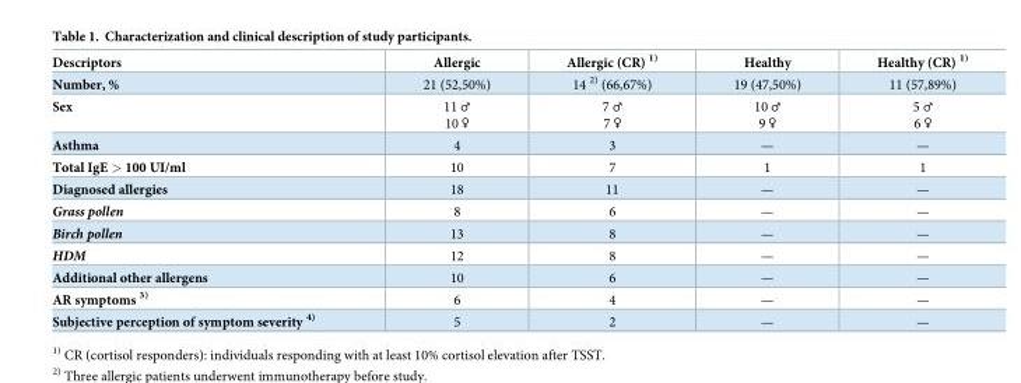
<table><thead><tr><td>Descriptors</td><td>Allergic</td><td>Allergic (CR) <sup>1)</sup></td><td>Healthy</td><td>Healthy (CR) <sup>1)</sup></td></tr></thead><tbody><tr><td>Number, %</td><td>21 (52,50%)</td><td>14 <sup>2)</sup> (66,67%)</td><td>19 (47,50%)</td><td>11 (57,89%)</td></tr><tr><td>Sex</td><td>11 ♂ 10 ♀</td><td>7 ♂ 7 ♀</td><td>10 ♂ 9 ♀</td><td>5 ♂ 6 ♀</td></tr><tr><td>Asthma</td><td>4</td><td>3</td><td>—</td><td>—</td></tr><tr><td>Total IgE &gt; 100 UI/ml</td><td>10</td><td>7</td><td>1</td><td>1</td></tr><tr><td>Diagnosed allergies</td><td>18</td><td>11</td><td>—</td><td>—</td></tr><tr><td>Grass pollen</td><td>8</td><td>6</td><td>—</td><td>—</td></tr><tr><td>Birch pollen</td><td>13</td><td>8</td><td>—</td><td>—</td></tr><tr><td>HDM</td><td>12</td><td>8</td><td>—</td><td>—</td></tr><tr><td>Additional other allergens</td><td>10</td><td>6</td><td>—</td><td>—</td></tr><tr><td>AR symptoms <sup>3)</sup></td><td>6</td><td>4</td><td>—</td><td>—</td></tr><tr><td>Subjective perception of symptom severity <sup>4)</sup></td><td>5</td><td>2</td><td>—</td><td>—</td></tr></tbody></table>